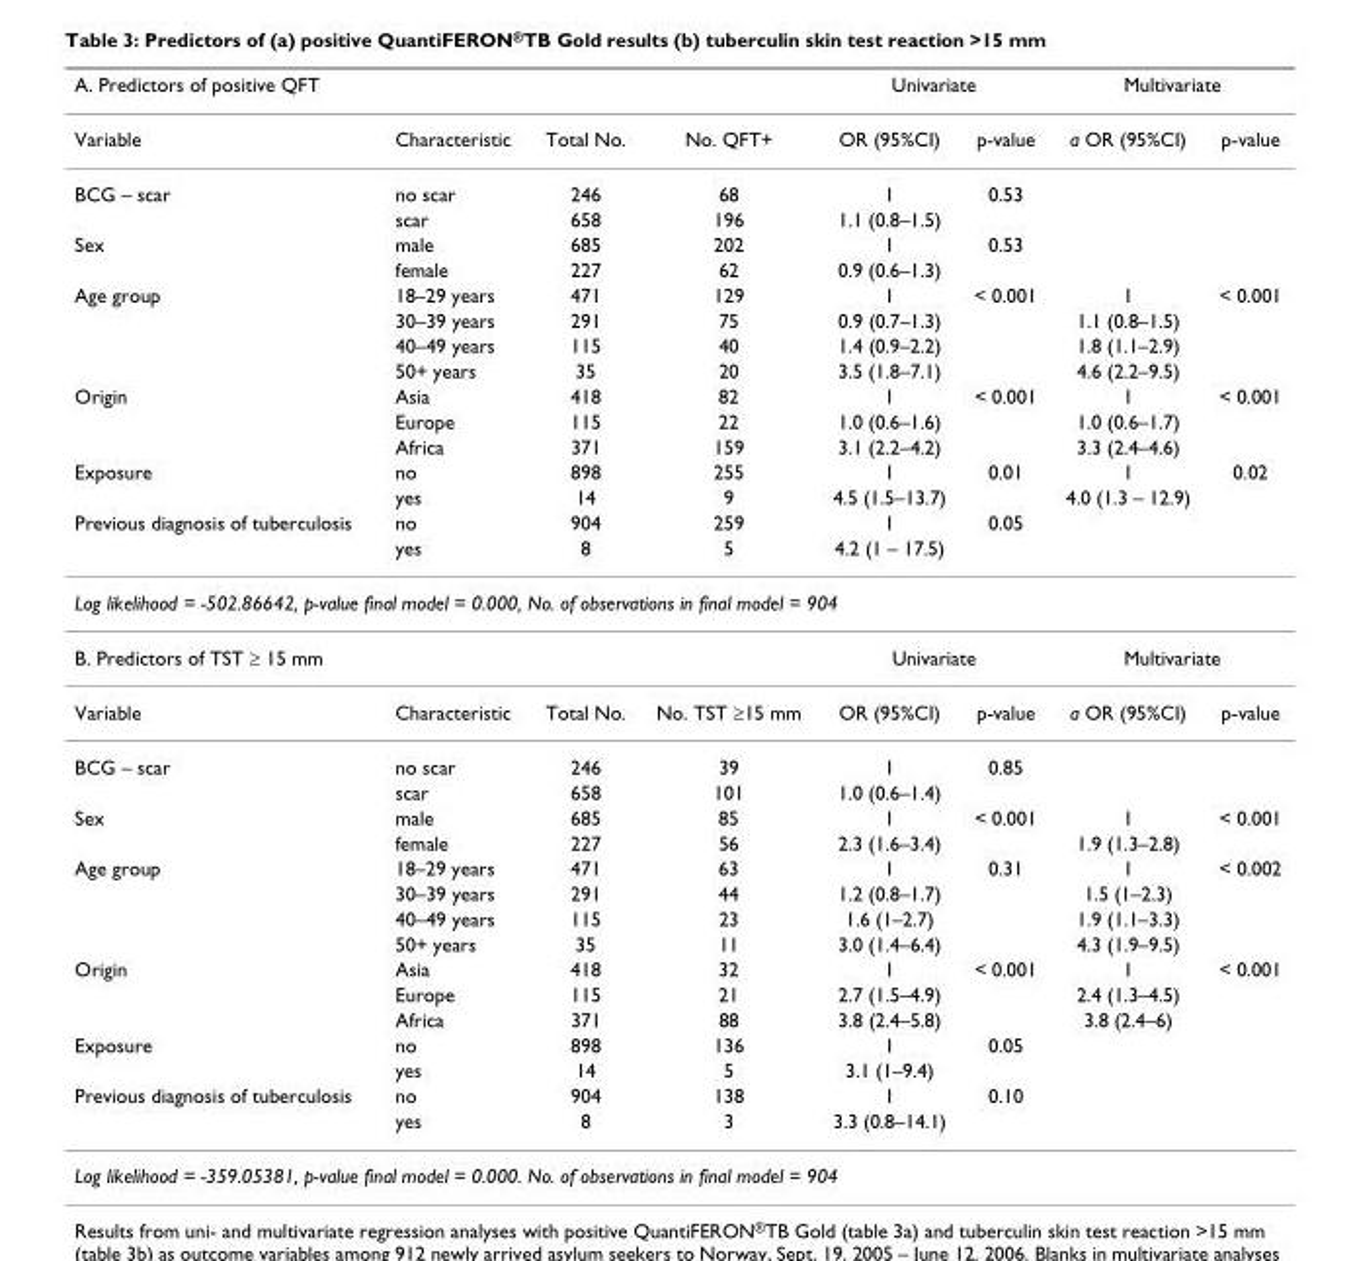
<table><thead><tr><td colspan="2">A. Predictors of positive QFT</td><td rowspan="2">Total No.</td><td rowspan="2">No. QFT+</td><td colspan="2">Univariate</td><td colspan="2">Multivariate</td></tr><tr><td>Variable</td><td>Characteristic</td><td>OR (95%CI)</td><td>p-value</td><td>a OR (95%CI)</td><td>p-value</td></tr></thead><tbody><tr><td rowspan="2">BCG – scar</td><td>no scar</td><td>246</td><td>68</td><td>1</td><td>0.53</td><td></td><td></td></tr><tr><td>scar</td><td>658</td><td>196</td><td>1.1 (0.8–1.5)</td><td></td><td></td><td></td></tr><tr><td rowspan="2">Sex</td><td>male</td><td>685</td><td>202</td><td>1</td><td>0.53</td><td></td><td></td></tr><tr><td>female</td><td>227</td><td>62</td><td>0.9 (0.6–1.3)</td><td></td><td></td><td></td></tr><tr><td rowspan="4">Age group</td><td>18–29 years</td><td>471</td><td>129</td><td>1</td><td>&lt; 0.001</td><td>1</td><td>&lt; 0.001</td></tr><tr><td>30–39 years</td><td>291</td><td>75</td><td>0.9 (0.7–1.3)</td><td></td><td>1.1 (0.8–1.5)</td><td></td></tr><tr><td>40–49 years</td><td>115</td><td>40</td><td>1.4 (0.9–2.2)</td><td></td><td>1.8 (1.1–2.9)</td><td></td></tr><tr><td>50+ years</td><td>35</td><td>20</td><td>3.5 (1.8–7.1)</td><td></td><td>4.6 (2.2–9.5)</td><td></td></tr><tr><td rowspan="3">Origin</td><td>Asia</td><td>418</td><td>82</td><td>1</td><td>&lt; 0.001</td><td>1</td><td>&lt; 0.001</td></tr><tr><td>Europe</td><td>115</td><td>22</td><td>1.0 (0.6–1.6)</td><td></td><td>1.0 (0.6–1.7)</td><td></td></tr><tr><td>Africa</td><td>371</td><td>159</td><td>3.1 (2.2–4.2)</td><td></td><td>3.3 (2.4–4.6)</td><td></td></tr><tr><td rowspan="2">Exposure</td><td>no</td><td>898</td><td>255</td><td>1</td><td>0.01</td><td>1</td><td>0.02</td></tr><tr><td>yes</td><td>14</td><td>9</td><td>4.5 (1.5–13.7)</td><td></td><td>4.0 (1.3 – 12.9)</td><td></td></tr><tr><td rowspan="2">Previous diagnosis of tuberculosis</td><td>no</td><td>904</td><td>259</td><td>1</td><td>0.05</td><td></td><td></td></tr><tr><td>yes</td><td>8</td><td>5</td><td>4.2 (1 – 17.5)</td><td></td><td></td><td></td></tr><tr><td colspan="8">Log likelihood = -502.86642, p-value final model = 0.000, No. of observations in final model = 904</td></tr><tr><td colspan="2">B. Predictors of TST ≥ 15 mm</td><td></td><td></td><td colspan="2">Univariate</td><td colspan="2">Multivariate</td></tr><tr><td>Variable</td><td>Characteristic</td><td>Total No.</td><td>No. TST ≥15 mm</td><td>OR (95%CI)</td><td>p-value</td><td>a OR (95%CI)</td><td>p-value</td></tr><tr><td rowspan="2">BCG – scar</td><td>no scar</td><td>246</td><td>39</td><td>1</td><td>0.85</td><td></td><td></td></tr><tr><td>scar</td><td>658</td><td>101</td><td>1.0 (0.6–1.4)</td><td></td><td></td><td></td></tr><tr><td rowspan="2">Sex</td><td>male</td><td>685</td><td>85</td><td>1</td><td>&lt; 0.001</td><td>1</td><td>&lt; 0.001</td></tr><tr><td>female</td><td>227</td><td>56</td><td>2.3 (1.6–3.4)</td><td></td><td>1.9 (1.3–2.8)</td><td></td></tr><tr><td rowspan="4">Age group</td><td>18–29 years</td><td>471</td><td>63</td><td>1</td><td>0.31</td><td>1</td><td>&lt; 0.002</td></tr><tr><td>30–39 years</td><td>291</td><td>44</td><td>1.2 (0.8–1.7)</td><td></td><td>1.5 (1–2.3)</td><td></td></tr><tr><td>40–49 years</td><td>115</td><td>23</td><td>1.6 (1–2.7)</td><td></td><td>1.9 (1.1–3.3)</td><td></td></tr><tr><td>50+ years</td><td>35</td><td>11</td><td>3.0 (1.4–6.4)</td><td></td><td>4.3 (1.9–9.5)</td><td></td></tr><tr><td rowspan="3">Origin</td><td>Asia</td><td>418</td><td>32</td><td>1</td><td>&lt; 0.001</td><td>1</td><td>&lt; 0.001</td></tr><tr><td>Europe</td><td>115</td><td>21</td><td>2.7 (1.5–4.9)</td><td></td><td>2.4 (1.3–4.5)</td><td></td></tr><tr><td>Africa</td><td>371</td><td>88</td><td>3.8 (2.4–5.8)</td><td></td><td>3.8 (2.4–6)</td><td></td></tr><tr><td rowspan="2">Exposure</td><td>no</td><td>898</td><td>136</td><td>1</td><td>0.05</td><td></td><td></td></tr><tr><td>yes</td><td>14</td><td>5</td><td>3.1 (1–9.4)</td><td></td><td></td><td></td></tr><tr><td rowspan="2">Previous diagnosis of tuberculosis</td><td>no</td><td>904</td><td>138</td><td>1</td><td>0.10</td><td></td><td></td></tr><tr><td>yes</td><td>8</td><td>3</td><td>3.3 (0.8–14.1)</td><td></td><td></td><td></td></tr><tr><td colspan="8">Log likelihood = -359.05381, p-value final model = 0.000. No. of observations in final model = 904</td></tr></tbody></table>